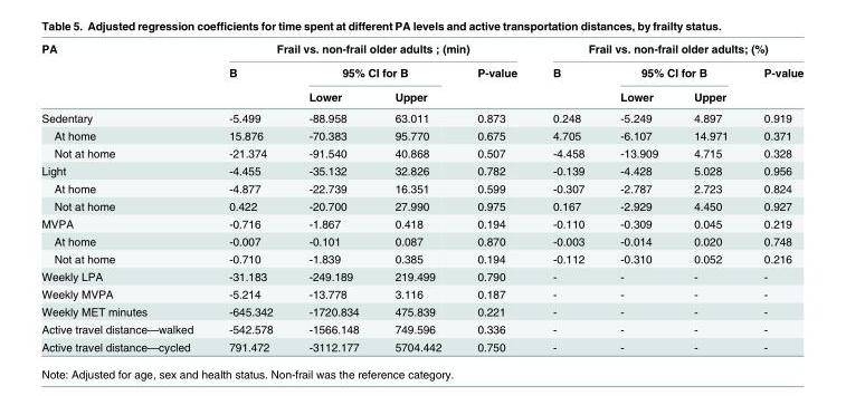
<table><thead><tr><td rowspan="3">PA</td><td colspan="4">Frail vs. non-frail older adults ; (min)</td><td colspan="4">Frail vs. non-frail older adults; (%)</td></tr><tr><td rowspan="2">B</td><td colspan="2">95% CI for B</td><td rowspan="2">P-value</td><td rowspan="2">B</td><td colspan="2">95% CI for B</td><td rowspan="2">P-value</td></tr><tr><td>Lower</td><td>Upper</td><td>Lower</td><td>Upper</td></tr></thead><tbody><tr><td>Sedentary</td><td>-5.499</td><td>-88.958</td><td>63.011</td><td>0.873</td><td>0.248</td><td>-5.249</td><td>4.897</td><td>0.919</td></tr><tr><td>At home</td><td>15.876</td><td>-70.383</td><td>95.770</td><td>0.675</td><td>4.705</td><td>-6.107</td><td>14.971</td><td>0.371</td></tr><tr><td>Not at home</td><td>-21.374</td><td>-91.540</td><td>40.868</td><td>0.507</td><td>-4.458</td><td>-13.909</td><td>4.715</td><td>0.328</td></tr><tr><td>Light</td><td>-4.455</td><td>-35.132</td><td>32.826</td><td>0.782</td><td>-0.139</td><td>-4.428</td><td>5.028</td><td>0.956</td></tr><tr><td>At home</td><td>-4.877</td><td>-22.739</td><td>16.351</td><td>0.599</td><td>-0.307</td><td>-2.787</td><td>2.723</td><td>0.824</td></tr><tr><td>Not at home</td><td>0.422</td><td>-20.700</td><td>27.990</td><td>0.975</td><td>0.167</td><td>-2.929</td><td>4.450</td><td>0.927</td></tr><tr><td>MVPA</td><td>-0.716</td><td>-1.867</td><td>0.418</td><td>0.194</td><td>-0.110</td><td>-0.309</td><td>0.045</td><td>0.219</td></tr><tr><td>At home</td><td>-0.007</td><td>-0.101</td><td>0.087</td><td>0.870</td><td>-0.003</td><td>-0.014</td><td>0.020</td><td>0.748</td></tr><tr><td>Not at home</td><td>-0.710</td><td>-1.839</td><td>0.385</td><td>0.194</td><td>-0.112</td><td>-0.310</td><td>0.052</td><td>0.216</td></tr><tr><td>Weekly LPA</td><td>-31.183</td><td>-249.189</td><td>219.499</td><td>0.790</td><td>-</td><td>-</td><td>-</td><td>-</td></tr><tr><td>Weekly MVPA</td><td>-5.214</td><td>-13.778</td><td>3.116</td><td>0.187</td><td>-</td><td>-</td><td>-</td><td>-</td></tr><tr><td>Weekly MET minutes</td><td>-645.342</td><td>-1720.834</td><td>475.839</td><td>0.221</td><td>-</td><td>-</td><td>-</td><td>-</td></tr><tr><td>Active travel distance—walked</td><td>-542.578</td><td>-1566.148</td><td>749.596</td><td>0.336</td><td>-</td><td>-</td><td>-</td><td>-</td></tr><tr><td>Active travel distance—cycled</td><td>791.472</td><td>-3112.177</td><td>5704.442</td><td>0.750</td><td>-</td><td>-</td><td>-</td><td>-</td></tr></tbody></table>